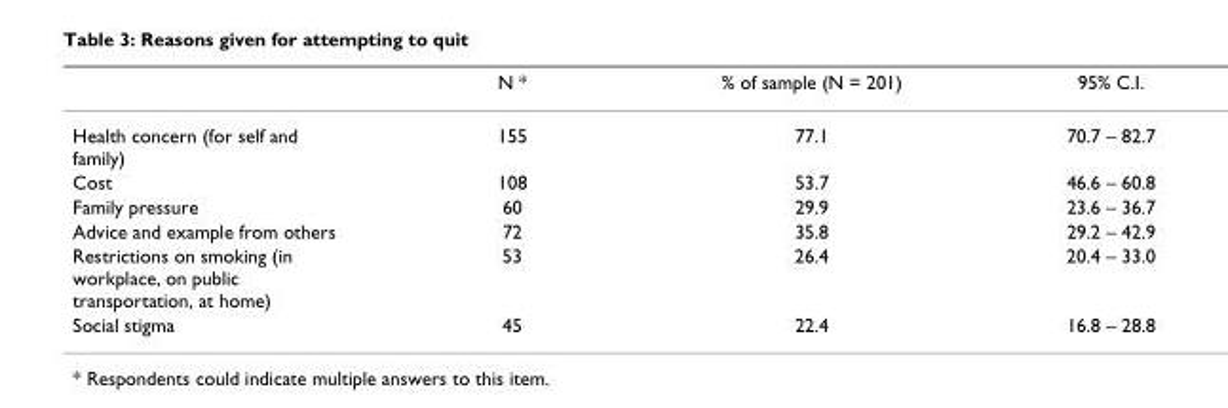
<table><thead><tr><td></td><td>N *</td><td>% of sample (N = 201)</td><td>95% C.I.</td></tr></thead><tbody><tr><td>Health concern (for self and family)</td><td>155</td><td>77.1</td><td>70.7 – 82.7</td></tr><tr><td>Cost</td><td>108</td><td>53.7</td><td>46.6 – 60.8</td></tr><tr><td>Family pressure</td><td>60</td><td>29.9</td><td>23.6 – 36.7</td></tr><tr><td>Advice and example from others</td><td>72</td><td>35.8</td><td>29.2 – 42.9</td></tr><tr><td>Restrictions on smoking (in workplace, on public transportation, at home)</td><td>53</td><td>26.4</td><td>20.4 – 33.0</td></tr><tr><td>Social stigma</td><td>45</td><td>22.4</td><td>16.8 – 28.8</td></tr></tbody></table>